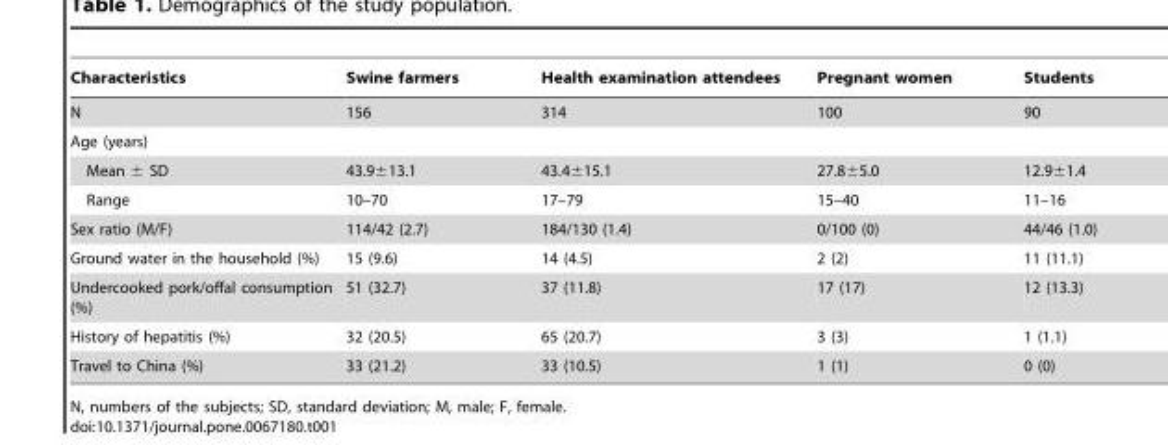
<table><thead><tr><td>Characteristics</td><td>Swine farmers</td><td>Health examination attendees</td><td>Pregnant women</td><td>Students</td></tr></thead><tbody><tr><td>N</td><td>156</td><td>314</td><td>100</td><td>90</td></tr><tr><td colspan="5">Age (years)</td></tr><tr><td>Mean ± SD</td><td>43.9±13.1</td><td>43.4±15.1</td><td>27.8±5.0</td><td>12.9±1.4</td></tr><tr><td>Range</td><td>10–70</td><td>17–79</td><td>15–40</td><td>11–16</td></tr><tr><td>Sex ratio (M/F)</td><td>114/42 (2.7)</td><td>184/130 (1.4)</td><td>0/100 (0)</td><td>44/46 (1.0)</td></tr><tr><td>Ground water in the household (%)</td><td>15 (9.6)</td><td>14 (4.5)</td><td>2 (2)</td><td>11 (11.1)</td></tr><tr><td>Undercooked pork/offal consumption (%)</td><td>51 (32.7)</td><td>37 (11.8)</td><td>17 (17)</td><td>12 (13.3)</td></tr><tr><td>History of hepatitis (%)</td><td>32 (20.5)</td><td>65 (20.7)</td><td>3 (3)</td><td>1 (1.1)</td></tr><tr><td>Travel to China (%)</td><td>33 (21.2)</td><td>33 (10.5)</td><td>1 (1)</td><td>0 (0)</td></tr></tbody></table>